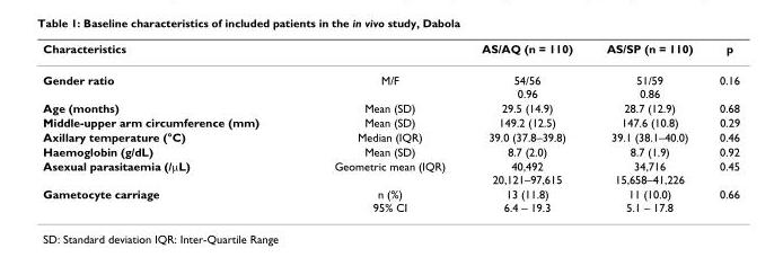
<table><thead><tr><td>Characteristics</td><td></td><td>AS/AQ (n = 110)</td><td>AS/SP (n = 110)</td><td>p</td></tr></thead><tbody><tr><td>Gender ratio</td><td>M/F</td><td>54/56 0.96</td><td>51/59 0.86</td><td>0.16</td></tr><tr><td>Age (months)</td><td>Mean (SD)</td><td>29.5 (14.9)</td><td>28.7 (12.9)</td><td>0.68</td></tr><tr><td>Middle-upper arm circumference (mm)</td><td>Mean (SD)</td><td>149.2 (12.5)</td><td>147.6 (10.8)</td><td>0.29</td></tr><tr><td>Axillary temperature (°C)</td><td>Median (IQR)</td><td>39.0 (37.8–39.8)</td><td>39.1 (38.1–40.0)</td><td>0.46</td></tr><tr><td>Haemoglobin (g/dL)</td><td>Mean (SD)</td><td>8.7 (2.0)</td><td>8.7 (1.9)</td><td>0.92</td></tr><tr><td>Asexual parasitaemia (/µL)</td><td>Geometric mean (IQR)</td><td>40,492 20,121–97,615</td><td>34,716 15,658–41,226</td><td>0.45</td></tr><tr><td>Gametocyte carriage</td><td>n (%) 95% CI</td><td>13 (11.8) 6.4 – 19.3</td><td>11 (10.0) 5.1 – 17.8</td><td>0.66</td></tr></tbody></table>